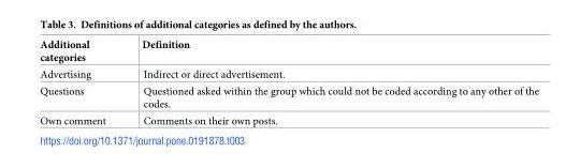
<table><thead><tr><td>Additional categories</td><td>Definition</td></tr></thead><tbody><tr><td>Advertising</td><td>Indirect or direct advertisement.</td></tr><tr><td>Questions</td><td>Questioned asked within the group which could not be coded according to any other of the codes.</td></tr><tr><td>Own comment</td><td>Comments on their own posts.</td></tr></tbody></table>